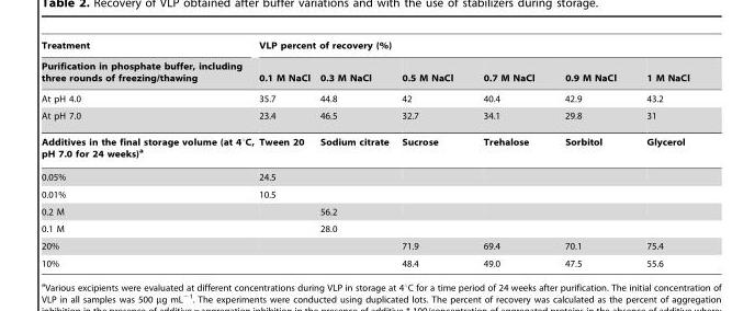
<table><thead><tr><td rowspan="2">Treatment Purification in phosphate buffer, including three rounds of freezing/thawing</td><td colspan="6">VLP percent of recovery (%)</td></tr><tr><td>0.1 M NaCl</td><td>0.3 M NaCl</td><td>0.5 M NaCl</td><td>0.7 M NaCl</td><td>0.9 M NaCl</td><td>1 M NaCl</td></tr></thead><tbody><tr><td>At pH 4.0</td><td>35.7</td><td>44.8</td><td>42</td><td>40.4</td><td>42.9</td><td>43.2</td></tr><tr><td>At pH 7.0</td><td>23.4</td><td>46.5</td><td>32.7</td><td>34.1</td><td>29.8</td><td>31</td></tr><tr><td>Additives in the final storage volume (at 4°C, pH 7.0 for 24 weeks)a</td><td>Tween 20</td><td>Sodium citrate</td><td>Sucrose</td><td>Trehalose</td><td>Sorbitol</td><td>Glycerol</td></tr><tr><td>0.05%</td><td>24.5</td><td></td><td></td><td></td><td></td><td></td></tr><tr><td>0.01%</td><td>10.5</td><td></td><td></td><td></td><td></td><td></td></tr><tr><td>0.2 M</td><td></td><td>56.2</td><td></td><td></td><td></td><td></td></tr><tr><td>0.1 M</td><td></td><td>28.0</td><td></td><td></td><td></td><td></td></tr><tr><td>20%</td><td></td><td></td><td>71.9</td><td>69.4</td><td>70.1</td><td>75.4</td></tr><tr><td>10%</td><td></td><td></td><td>48.4</td><td>49.0</td><td>47.5</td><td>55.6</td></tr></tbody></table>